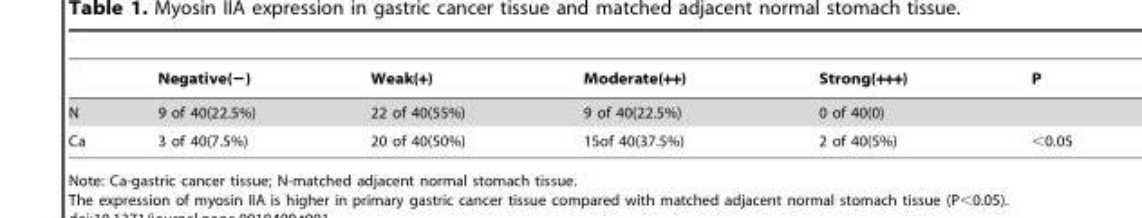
<table><thead><tr><td></td><td>Negative(−)</td><td>Weak(+)</td><td>Moderate(++)</td><td>Strong(+++)</td><td>P</td></tr></thead><tbody><tr><td>N</td><td>9 of 40(22.5%)</td><td>22 of 40(55%)</td><td>9 of 40(22.5%)</td><td>0 of 40(0)</td><td></td></tr><tr><td>Ca</td><td>3 of 40(7.5%)</td><td>20 of 40(50%)</td><td>15of 40(37.5%)</td><td>2 of 40(5%)</td><td>&lt;0.05</td></tr></tbody></table>